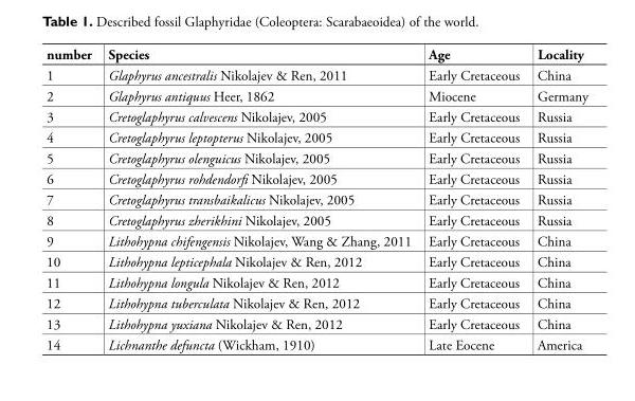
<table><thead><tr><td>number</td><td>Species</td><td>Age</td><td>Locality</td></tr></thead><tbody><tr><td>1</td><td>Glaphyrus ancestralis Nikolajev &amp; Ren, 2011</td><td>Early Cretaceous</td><td>China</td></tr><tr><td>2</td><td>Glaphyrus antiquus Heer, 1862</td><td>Miocene</td><td>Germany</td></tr><tr><td>3</td><td>Cretoglaphyrus calvescens Nikolajev, 2005</td><td>Early Cretaceous</td><td>Russia</td></tr><tr><td>4</td><td>Cretoglaphyrus leptopterus Nikolajev, 2005</td><td>Early Cretaceous</td><td>Russia</td></tr><tr><td>5</td><td>Cretoglaphyrus olenguicus Nikolajev, 2005</td><td>Early Cretaceous</td><td>Russia</td></tr><tr><td>6</td><td>Cretoglaphyrus rohdendorfi Nikolajev, 2005</td><td>Early Cretaceous</td><td>Russia</td></tr><tr><td>7</td><td>Cretoglaphyrus transbaikalicus Nikolajev, 2005</td><td>Early Cretaceous</td><td>Russia</td></tr><tr><td>8</td><td>Cretoglaphyrus zherikhini Nikolajev, 2005</td><td>Early Cretaceous</td><td>Russia</td></tr><tr><td>9</td><td>Lithohypna chifengensis Nikolajev, Wang &amp; Zhang, 2011</td><td>Early Cretaceous</td><td>China</td></tr><tr><td>10</td><td>Lithohypna lepticephala Nikolajev &amp; Ren, 2012</td><td>Early Cretaceous</td><td>China</td></tr><tr><td>11</td><td>Lithohypna longula Nikolajev &amp; Ren, 2012</td><td>Early Cretaceous</td><td>China</td></tr><tr><td>12</td><td>Lithohypna tuberculata Nikolajev &amp; Ren, 2012</td><td>Early Cretaceous</td><td>China</td></tr><tr><td>13</td><td>Lithohypna yuxiana Nikolajev &amp; Ren, 2012</td><td>Early Cretaceous</td><td>China</td></tr><tr><td>14</td><td>Lichnanthe defuncta (Wickham, 1910)</td><td>Late Eocene</td><td>America</td></tr></tbody></table>